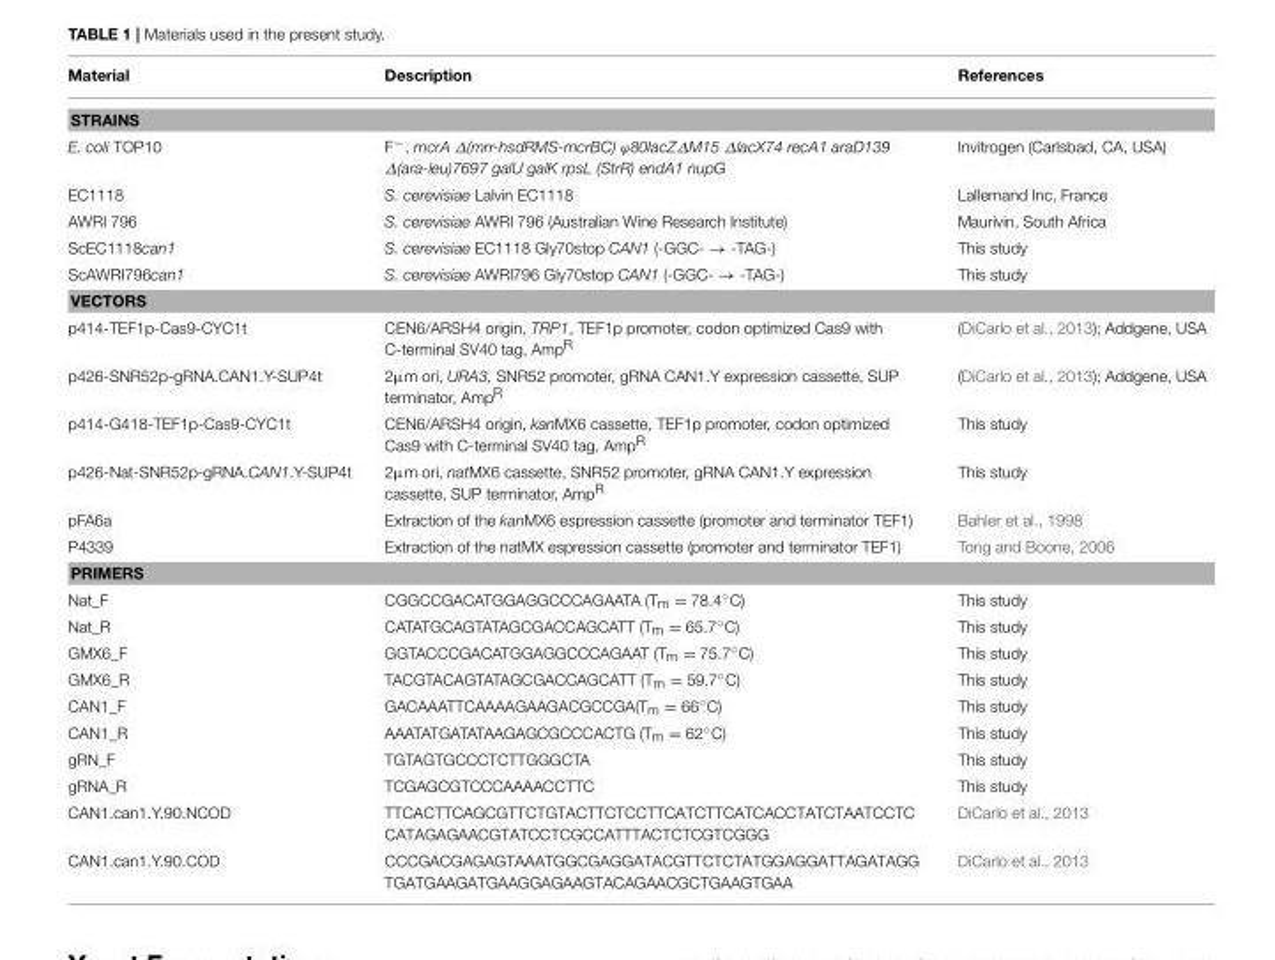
<table><thead><tr><td>Material</td><td>Description</td><td>References</td></tr></thead><tbody><tr><td colspan="3">STRAINS</td></tr><tr><td>E. coli TOP10</td><td>F−, mcrA ∆(mrr-hsdRMS-mcrBC) ϕ80lacZ∆M15 ∆lacX74 recA1 araD139 ∆(ara-leu)7697 galU galK rpsL (StrR) endA1 nupG</td><td>Invitrogen (Carlsbad, CA, USA)</td></tr><tr><td>EC1118</td><td>S. cerevisiae Lalvin EC1118</td><td>Lallemand Inc, France</td></tr><tr><td>AWRI 796</td><td>S. cerevisiae AWRI 796 (Australian Wine Research Institute)</td><td>Maurivin, South Africa</td></tr><tr><td>ScEC1118can1</td><td>S. cerevisiae EC1118 Gly70stop CAN1 (-GGC- → -TAG-)</td><td>This study</td></tr><tr><td>ScAWRI796can1</td><td>S. cerevisiae AWRI796 Gly70stop CAN1 (-GGC- → -TAG-)</td><td>This study</td></tr><tr><td colspan="3">VECTORS</td></tr><tr><td>p414-TEF1p-Cas9-CYC1t</td><td>CEN6/ARSH4 origin, TRP1, TEF1p promoter, codon optimized Cas9 with C-terminal SV40 tag, Amp<sup>R</sup></td><td>(DiCarlo et al., 2013); Addgene, USA</td></tr><tr><td>p426-SNR52p-gRNA.CAN1.Y-SUP4t</td><td>2µm ori, URA3, SNR52 promoter, gRNA CAN1.Y expression cassette, SUP terminator, Amp<sup>R</sup></td><td>(DiCarlo et al., 2013); Addgene, USA</td></tr><tr><td>p414-G418-TEF1p-Cas9-CYC1t</td><td>CEN6/ARSH4 origin, kanMX6 cassette, TEF1p promoter, codon optimized Cas9 with C-terminal SV40 tag, Amp<sup>R</sup></td><td>This study</td></tr><tr><td>p426-Nat-SNR52p-gRNA.CAN1.Y-SUP4t</td><td>2µm ori, natMX6 cassette, SNR52 promoter, gRNA CAN1.Y expression cassette, SUP terminator, Amp<sup>R</sup></td><td>This study</td></tr><tr><td>pFA6a</td><td>Extraction of the kanMX6 espression cassette (promoter and terminator TEF1)</td><td>Bahler et al., 1998</td></tr><tr><td>P4339</td><td>Extraction of the natMX espression cassette (promoter and terminator TEF1)</td><td>Tong and Boone, 2006</td></tr><tr><td colspan="3">PRIMERS</td></tr><tr><td>Nat_F</td><td>CGGCCGACATGGAGGCCCAGAATA (Tm = 78.4◦C)</td><td>This study</td></tr><tr><td>Nat_R</td><td>CATATGCAGTATAGCGACCAGCATT (Tm = 65.7◦C)</td><td>This study</td></tr><tr><td>GMX6_F</td><td>GGTACCCGACATGGAGGCCCAGAAT (Tm = 75.7◦C)</td><td>This study</td></tr><tr><td>GMX6_R</td><td>TACGTACAGTATAGCGACCAGCATT (Tm = 59.7◦C)</td><td>This study</td></tr><tr><td>CAN1_F</td><td>GACAAATTCAAAAGAAGACGCCGA(Tm = 66◦C)</td><td>This study</td></tr><tr><td>CAN1_R</td><td>AAATATGATATAAGAGCGCCCACTG (Tm = 62◦C)</td><td>This study</td></tr><tr><td>gRN_F</td><td>TGTAGTGCCCTCTTGGGCTA</td><td>This study</td></tr><tr><td>gRNA_R</td><td>TCGAGCGTCCCAAAACCTTC</td><td>This study</td></tr><tr><td>CAN1.can1.Y.90.NCOD</td><td>TTCACTTCAGCGTTCTGTACTTCTCCTTCATCTTCATCACCTATCTAATCCTC CATAGAGAACGTATCCTCGCCATTTACTCTCGTCGGG</td><td>DiCarlo et al., 2013</td></tr><tr><td>CAN1.can1.Y.90.COD</td><td>CCCGACGAGAGTAAATGGCGAGGATACGTTCTCTATGGAGGATTAGATAGG TGATGAAGATGAAGGAGAAGTACAGAACGCTGAAGTGAA</td><td>DiCarlo et al., 2013</td></tr></tbody></table>